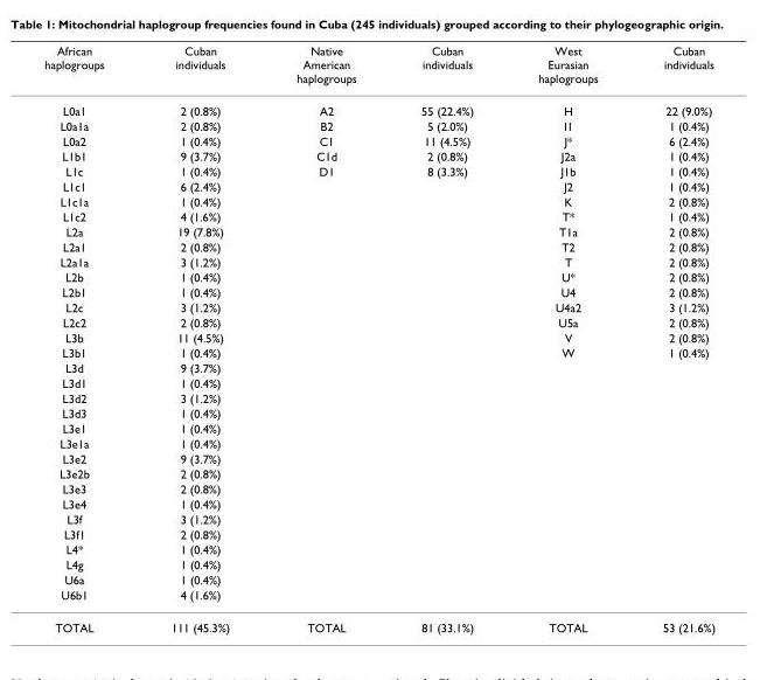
<table><thead><tr><td>African haplogroups</td><td>Cuban individuals</td><td>Native American haplogroups</td><td>Cuban individuals</td><td>West Eurasian haplogroups</td><td>Cuban individuals</td></tr></thead><tbody><tr><td>L0a1</td><td>2 (0.8%)</td><td>A2</td><td>55 (22.4%)</td><td>H</td><td>22 (9.0%)</td></tr><tr><td>L0a1a</td><td>2 (0.8%)</td><td>B2</td><td>5 (2.0%)</td><td>I1</td><td>1 (0.4%)</td></tr><tr><td>L0a2</td><td>1 (0.4%)</td><td>C1</td><td>11 (4.5%)</td><td>J*</td><td>6 (2.4%)</td></tr><tr><td>L1b1</td><td>9 (3.7%)</td><td>C1d</td><td>2 (0.8%)</td><td>J2a</td><td>1 (0.4%)</td></tr><tr><td>L1c</td><td>1 (0.4%)</td><td>D1</td><td>8 (3.3%)</td><td>J1b</td><td>1 (0.4%)</td></tr><tr><td>L1c1</td><td>6 (2.4%)</td><td></td><td></td><td>J2</td><td>1 (0.4%)</td></tr><tr><td>L1c1a</td><td>1 (0.4%)</td><td></td><td></td><td>K</td><td>2 (0.8%)</td></tr><tr><td>L1c2</td><td>4 (1.6%)</td><td></td><td></td><td>T*</td><td>1 (0.4%)</td></tr><tr><td>L2a</td><td>19 (7.8%)</td><td></td><td></td><td>T1a</td><td>2 (0.8%)</td></tr><tr><td>L2a1</td><td>2 (0.8%)</td><td></td><td></td><td>T2</td><td>2 (0.8%)</td></tr><tr><td>L2a1a</td><td>3 (1.2%)</td><td></td><td></td><td>T</td><td>2 (0.8%)</td></tr><tr><td>L2b</td><td>1 (0.4%)</td><td></td><td></td><td>U*</td><td>2 (0.8%)</td></tr><tr><td>L2b1</td><td>1 (0.4%)</td><td></td><td></td><td>U4</td><td>2 (0.8%)</td></tr><tr><td>L2c</td><td>3 (1.2%)</td><td></td><td></td><td>U4a2</td><td>3 (1.2%)</td></tr><tr><td>L2c2</td><td>2 (0.8%)</td><td></td><td></td><td>U5a</td><td>2 (0.8%)</td></tr><tr><td>L3b</td><td>11 (4.5%)</td><td></td><td></td><td>V</td><td>2 (0.8%)</td></tr><tr><td>L3b1</td><td>1 (0.4%)</td><td></td><td></td><td>W</td><td>1 (0.4%)</td></tr><tr><td>L3d</td><td>9 (3.7%)</td><td></td><td></td><td></td><td></td></tr><tr><td>L3d1</td><td>1 (0.4%)</td><td></td><td></td><td></td><td></td></tr><tr><td>L3d2</td><td>3 (1.2%)</td><td></td><td></td><td></td><td></td></tr><tr><td>L3d3</td><td>1 (0.4%)</td><td></td><td></td><td></td><td></td></tr><tr><td>L3e1</td><td>1 (0.4%)</td><td></td><td></td><td></td><td></td></tr><tr><td>L3e1a</td><td>1 (0.4%)</td><td></td><td></td><td></td><td></td></tr><tr><td>L3e2</td><td>9 (3.7%)</td><td></td><td></td><td></td><td></td></tr><tr><td>L3e2b</td><td>2 (0.8%)</td><td></td><td></td><td></td><td></td></tr><tr><td>L3e3</td><td>2 (0.8%)</td><td></td><td></td><td></td><td></td></tr><tr><td>L3e4</td><td>1 (0.4%)</td><td></td><td></td><td></td><td></td></tr><tr><td>L3f</td><td>3 (1.2%)</td><td></td><td></td><td></td><td></td></tr><tr><td>L3f1</td><td>2 (0.8%)</td><td></td><td></td><td></td><td></td></tr><tr><td>L4*</td><td>1 (0.4%)</td><td></td><td></td><td></td><td></td></tr><tr><td>L4g</td><td>1 (0.4%)</td><td></td><td></td><td></td><td></td></tr><tr><td>U6a</td><td>1 (0.4%)</td><td></td><td></td><td></td><td></td></tr><tr><td>U6b1</td><td>4 (1.6%)</td><td></td><td></td><td></td><td></td></tr><tr><td>TOTAL</td><td>111 (45.3%)</td><td>TOTAL</td><td>81 (33.1%)</td><td>TOTAL</td><td>53 (21.6%)</td></tr></tbody></table>